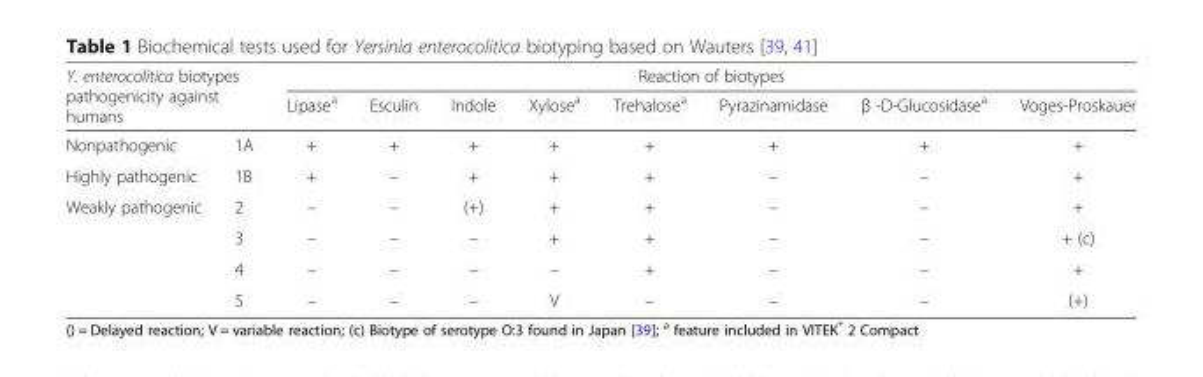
<table><thead><tr><td rowspan="2" colspan="2">Y. enterocolitica biotypes pathogenicity against humans</td><td colspan="8">Reaction of biotypes</td></tr><tr><td rowspan="2">Lipase<sup>a</sup> +</td><td rowspan="2">Esculin +</td><td rowspan="2">Indole +</td><td rowspan="2">Xylose<sup>a</sup> +</td><td rowspan="2">Trehalose<sup>a</sup> +</td><td rowspan="2">Pyrazinamidase +</td><td rowspan="2">β -D-Glucosidase<sup>a</sup> +</td><td rowspan="2">Voges-Proskauer +</td></tr><tr><td>Nonpathogenic</td><td>1A</td></tr></thead><tbody><tr><td>Highly pathogenic</td><td>1B</td><td>+</td><td>–</td><td>+</td><td>+</td><td>+</td><td>–</td><td>–</td><td>+</td></tr><tr><td rowspan="4">Weakly pathogenic</td><td>2</td><td>–</td><td>–</td><td>(+)</td><td>+</td><td>+</td><td>–</td><td>–</td><td>+</td></tr><tr><td>3</td><td>–</td><td>–</td><td>–</td><td>+</td><td>+</td><td>–</td><td>–</td><td>+ (c)</td></tr><tr><td>4</td><td>–</td><td>–</td><td>–</td><td>–</td><td>+</td><td>–</td><td>–</td><td>+</td></tr><tr><td>5</td><td>–</td><td>–</td><td>–</td><td>V</td><td>–</td><td>–</td><td>–</td><td>(+)</td></tr></tbody></table>